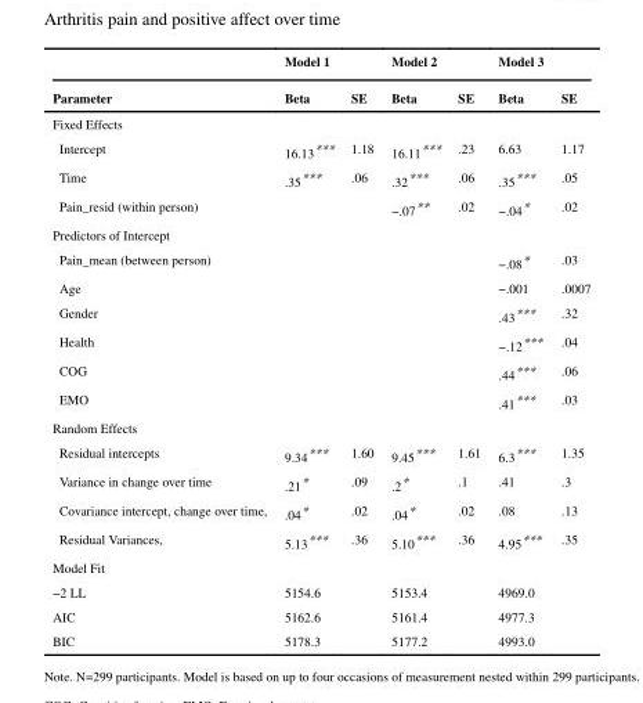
<table><thead><tr><td rowspan="2">Parameter</td><td rowspan="2">Model 1 Beta</td><td rowspan="2">SE</td><td rowspan="2">Model 2 Beta</td><td rowspan="2">SE</td><td rowspan="2">Model 3 Beta</td><td rowspan="2">SE</td></tr><tr></tr></thead><tbody><tr><td colspan="7">Fixed Effects</td></tr><tr><td>Intercept</td><td>16.13***</td><td>1.18</td><td>16.11***</td><td>.23</td><td>6.63</td><td>1.17</td></tr><tr><td>Time</td><td>.35***</td><td>.06</td><td>.32***</td><td>.06</td><td>.35***</td><td>.05</td></tr><tr><td>Pain_resid (within person)</td><td></td><td></td><td>−.07**</td><td>.02</td><td>−.04*</td><td>.02</td></tr><tr><td colspan="7">Predictors of Intercept</td></tr><tr><td>Pain_mean (between person)</td><td></td><td></td><td></td><td></td><td>−.08*</td><td>.03</td></tr><tr><td>Age</td><td></td><td></td><td></td><td></td><td>−.001</td><td>.0007</td></tr><tr><td>Gender</td><td></td><td></td><td></td><td></td><td>.43***</td><td>.32</td></tr><tr><td>Health</td><td></td><td></td><td></td><td></td><td>−.12***</td><td>.04</td></tr><tr><td>COG</td><td></td><td></td><td></td><td></td><td>.44***</td><td>.06</td></tr><tr><td>EMO</td><td></td><td></td><td></td><td></td><td>.41***</td><td>.03</td></tr><tr><td colspan="7">Random Effects</td></tr><tr><td>Residual intercepts</td><td>9.34***</td><td>1.60</td><td>9.45***</td><td>1.61</td><td>6.3***</td><td>1.35</td></tr><tr><td>Variance in change over time</td><td>.21*</td><td>.09</td><td>.2*</td><td>.1</td><td>.41</td><td>.3</td></tr><tr><td>Covariance intercept, change over time,</td><td>.04*</td><td>.02</td><td>.04*</td><td>.02</td><td>.08</td><td>.13</td></tr><tr><td>Residual Variances,</td><td>5.13***</td><td>.36</td><td>5.10***</td><td>.36</td><td>4.95***</td><td>.35</td></tr><tr><td colspan="7">Model Fit</td></tr><tr><td>−2 LL</td><td>5154.6</td><td></td><td>5153.4</td><td></td><td>4969.0</td><td></td></tr><tr><td>AIC</td><td>5162.6</td><td></td><td>5161.4</td><td></td><td>4977.3</td><td></td></tr><tr><td>BIC</td><td>5178.3</td><td></td><td>5177.2</td><td></td><td>4993.0</td><td></td></tr></tbody></table>